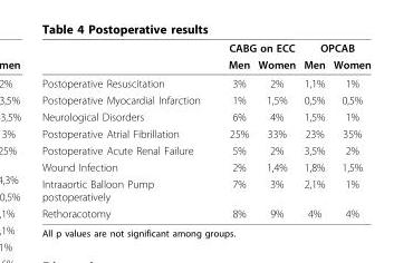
<table><thead><tr><td rowspan="2"></td><td colspan="2">CABG on ECC</td><td colspan="2">OPCAB</td></tr><tr><td>Men</td><td>Women</td><td>Men</td><td>Women</td></tr></thead><tbody><tr><td>Postoperative Resuscitation</td><td>3%</td><td>2%</td><td>1,1%</td><td>1%</td></tr><tr><td>Postoperative Myocardial Infarction</td><td>1%</td><td>1,5%</td><td>0,5%</td><td>0,5%</td></tr><tr><td>Neurological Disorders</td><td>6%</td><td>4%</td><td>1,5%</td><td>1%</td></tr><tr><td>Postoperative Atrial Fibrillation</td><td>25%</td><td>33%</td><td>23%</td><td>35%</td></tr><tr><td>Postoperative Acute Renal Failure</td><td>5%</td><td>2%</td><td>3,5%</td><td>2%</td></tr><tr><td>Wound Infection</td><td>2%</td><td>1,4%</td><td>1,8%</td><td>1,5%</td></tr><tr><td>Intraaortic Balloon Pump postoperatively</td><td>7%</td><td>3%</td><td>2,1%</td><td>1%</td></tr><tr><td>Rethoracotomy</td><td>8%</td><td>9%</td><td>4%</td><td>4%</td></tr></tbody></table>